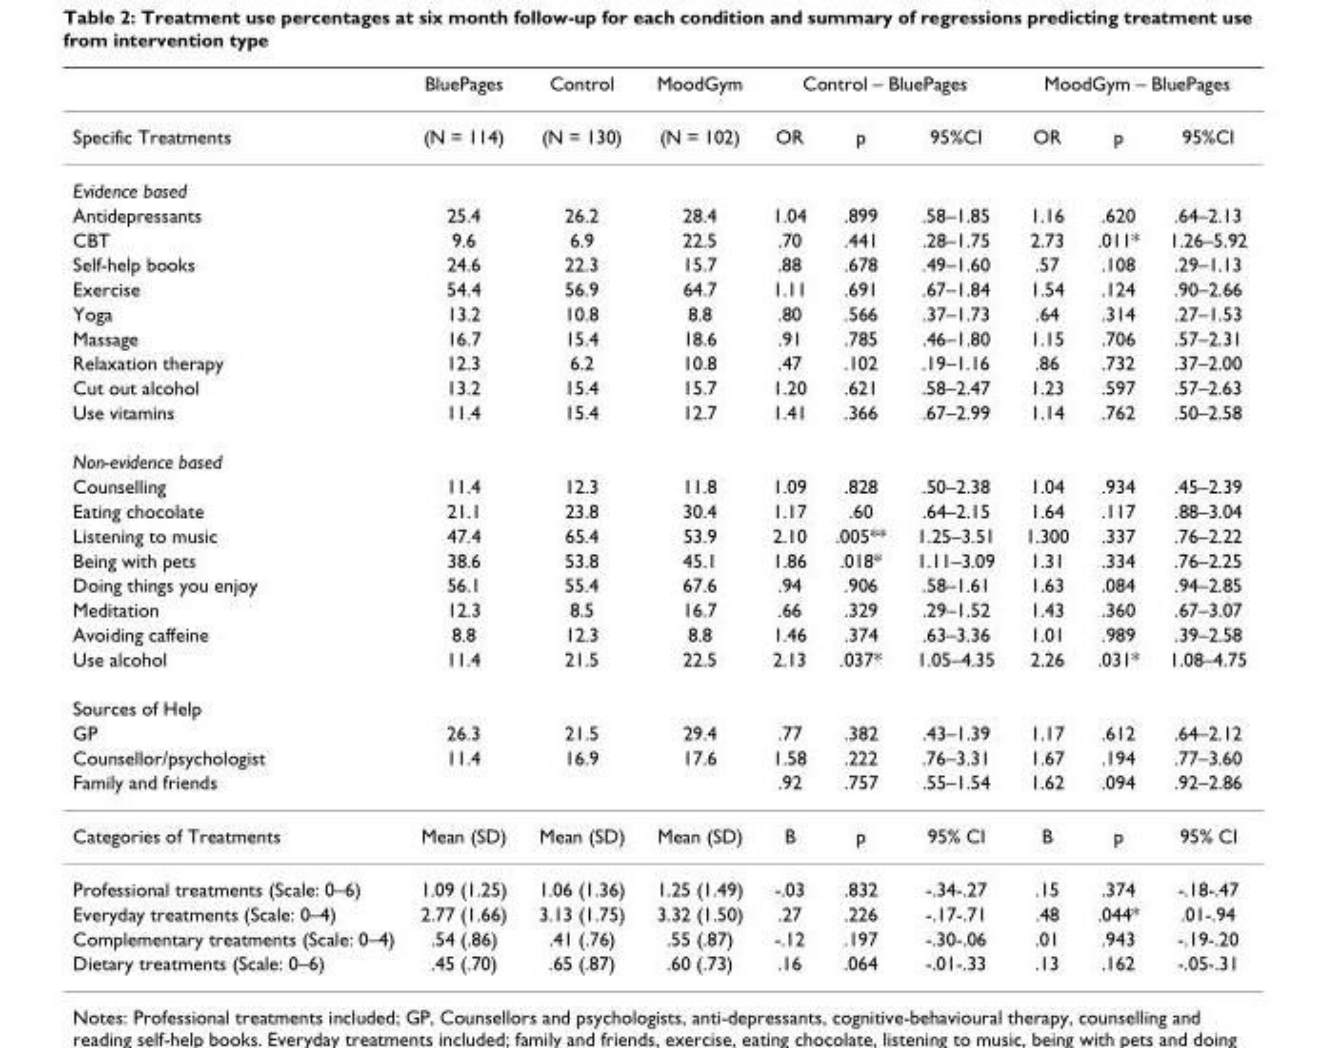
<table><thead><tr><td rowspan="2">Specific Treatments</td><td rowspan="2">BluePages (N = 114)</td><td rowspan="2">Control (N = 130)</td><td rowspan="2">MoodGym (N = 102)</td><td colspan="3">Control – BluePages</td><td colspan="3">MoodGym – BluePages</td></tr><tr><td>OR</td><td>p</td><td>95%CI</td><td>OR</td><td>p</td><td>95%CI</td></tr></thead><tbody><tr><td colspan="10">Evidence based</td></tr><tr><td>Antidepressants</td><td>25.4</td><td>26.2</td><td>28.4</td><td>1.04</td><td>.899</td><td>.58–1.85</td><td>1.16</td><td>.620</td><td>.64–2.13</td></tr><tr><td>CBT</td><td>9.6</td><td>6.9</td><td>22.5</td><td>.70</td><td>.441</td><td>.28–1.75</td><td>2.73</td><td>.011*</td><td>1.26–5.92</td></tr><tr><td>Self-help books</td><td>24.6</td><td>22.3</td><td>15.7</td><td>.88</td><td>.678</td><td>.49–1.60</td><td>.57</td><td>.108</td><td>.29–1.13</td></tr><tr><td>Exercise</td><td>54.4</td><td>56.9</td><td>64.7</td><td>1.11</td><td>.691</td><td>.67–1.84</td><td>1.54</td><td>.124</td><td>.90–2.66</td></tr><tr><td>Yoga</td><td>13.2</td><td>10.8</td><td>8.8</td><td>.80</td><td>.566</td><td>.37–1.73</td><td>.64</td><td>.314</td><td>.27–1.53</td></tr><tr><td>Massage</td><td>16.7</td><td>15.4</td><td>18.6</td><td>.91</td><td>.785</td><td>.46–1.80</td><td>1.15</td><td>.706</td><td>.57–2.31</td></tr><tr><td>Relaxation therapy</td><td>12.3</td><td>6.2</td><td>10.8</td><td>.47</td><td>.102</td><td>.19–1.16</td><td>.86</td><td>.732</td><td>.37–2.00</td></tr><tr><td>Cut out alcohol</td><td>13.2</td><td>15.4</td><td>15.7</td><td>1.20</td><td>.621</td><td>.58–2.47</td><td>1.23</td><td>.597</td><td>.57–2.63</td></tr><tr><td>Use vitamins</td><td>11.4</td><td>15.4</td><td>12.7</td><td>1.41</td><td>.366</td><td>.67–2.99</td><td>1.14</td><td>.762</td><td>.50–2.58</td></tr><tr><td colspan="10">Non-evidence based</td></tr><tr><td>Counselling</td><td>11.4</td><td>12.3</td><td>11.8</td><td>1.09</td><td>.828</td><td>.50–2.38</td><td>1.04</td><td>.934</td><td>.45–2.39</td></tr><tr><td>Eating chocolate</td><td>21.1</td><td>23.8</td><td>30.4</td><td>1.17</td><td>.60</td><td>.64–2.15</td><td>1.64</td><td>.117</td><td>.88–3.04</td></tr><tr><td>Listening to music</td><td>47.4</td><td>65.4</td><td>53.9</td><td>2.10</td><td>.005**</td><td>1.25–3.51</td><td>1.300</td><td>.337</td><td>.76–2.22</td></tr><tr><td>Being with pets</td><td>38.6</td><td>53.8</td><td>45.1</td><td>1.86</td><td>.018*</td><td>1.11–3.09</td><td>1.31</td><td>.334</td><td>.76–2.25</td></tr><tr><td>Doing things you enjoy</td><td>56.1</td><td>55.4</td><td>67.6</td><td>.94</td><td>.906</td><td>.58–1.61</td><td>1.63</td><td>.084</td><td>.94–2.85</td></tr><tr><td>Meditation</td><td>12.3</td><td>8.5</td><td>16.7</td><td>.66</td><td>.329</td><td>.29–1.52</td><td>1.43</td><td>.360</td><td>.67–3.07</td></tr><tr><td>Avoiding caffeine</td><td>8.8</td><td>12.3</td><td>8.8</td><td>1.46</td><td>.374</td><td>.63–3.36</td><td>1.01</td><td>.989</td><td>.39–2.58</td></tr><tr><td>Use alcohol</td><td>11.4</td><td>21.5</td><td>22.5</td><td>2.13</td><td>.037*</td><td>1.05–4.35</td><td>2.26</td><td>.031*</td><td>1.08–4.75</td></tr><tr><td colspan="10">Sources of Help</td></tr><tr><td>GP</td><td>26.3</td><td>21.5</td><td>29.4</td><td>.77</td><td>.382</td><td>.43–1.39</td><td>1.17</td><td>.612</td><td>.64–2.12</td></tr><tr><td>Counsellor/psychologist</td><td>11.4</td><td>16.9</td><td>17.6</td><td>1.58</td><td>.222</td><td>.76–3.31</td><td>1.67</td><td>.194</td><td>.77–3.60</td></tr><tr><td>Family and friends</td><td></td><td></td><td></td><td>.92</td><td>.757</td><td>.55–1.54</td><td>1.62</td><td>.094</td><td>.92–2.86</td></tr><tr><td>Categories of Treatments</td><td>Mean (SD)</td><td>Mean (SD)</td><td>Mean (SD)</td><td>B</td><td>p</td><td>95% CI</td><td>B</td><td>p</td><td>95% CI</td></tr><tr><td>Professional treatments (Scale: 0–6)</td><td>1.09 (1.25)</td><td>1.06 (1.36)</td><td>1.25 (1.49)</td><td>-.03</td><td>.832</td><td>-.34-.27</td><td>.15</td><td>.374</td><td>-.18-.47</td></tr><tr><td>Everyday treatments (Scale: 0–4)</td><td>2.77 (1.66)</td><td>3.13 (1.75)</td><td>3.32 (1.50)</td><td>.27</td><td>.226</td><td>-.17-.71</td><td>.48</td><td>.044*</td><td>.01-.94</td></tr><tr><td>Complementary treatments (Scale: 0–4)</td><td>.54 (.86)</td><td>.41 (.76)</td><td>.55 (.87)</td><td>-.12</td><td>.197</td><td>-.30-.06</td><td>.01</td><td>.943</td><td>-.19-.20</td></tr><tr><td>Dietary treatments (Scale: 0–6)</td><td>.45 (.70)</td><td>.65 (.87)</td><td>.60 (.73)</td><td>.16</td><td>.064</td><td>-.01-.33</td><td>.13</td><td>.162</td><td>-.05-.31</td></tr></tbody></table>